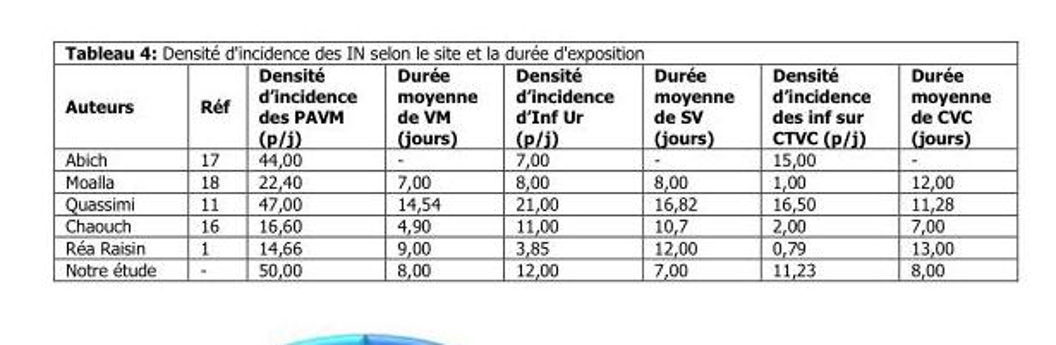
<table><thead><tr><td>Auteurs</td><td>Réf</td><td>Densité d’incidence des PAVM (p/j)</td><td>Durée moyenne de VM (jours)</td><td>Densité d’incidence d’Inf Ur (p/j)</td><td>Durée moyenne de SV (jours)</td><td>Densité d’incidence des inf sur CTVC (p/j)</td><td>Durée moyenne de CVC (jours)</td></tr></thead><tbody><tr><td>Abich</td><td>17</td><td>44,00</td><td>-</td><td>7,00</td><td>-</td><td>15,00</td><td>-</td></tr><tr><td>Moalla</td><td>18</td><td>22,40</td><td>7,00</td><td>8,00</td><td>8,00</td><td>1,00</td><td>12,00</td></tr><tr><td>Quassimi</td><td>11</td><td>47,00</td><td>14,54</td><td>21,00</td><td>16,82</td><td>16,50</td><td>11,28</td></tr><tr><td>Chaouch</td><td>16</td><td>16,60</td><td>4,90</td><td>11,00</td><td>10,7</td><td>2,00</td><td>7,00</td></tr><tr><td>Réa Raisin</td><td>1</td><td>14,66</td><td>9,00</td><td>3,85</td><td>12,00</td><td>0,79</td><td>13,00</td></tr><tr><td>Notre étude</td><td>-</td><td>50,00</td><td>8,00</td><td>12,00</td><td>7,00</td><td>11,23</td><td>8,00</td></tr></tbody></table>